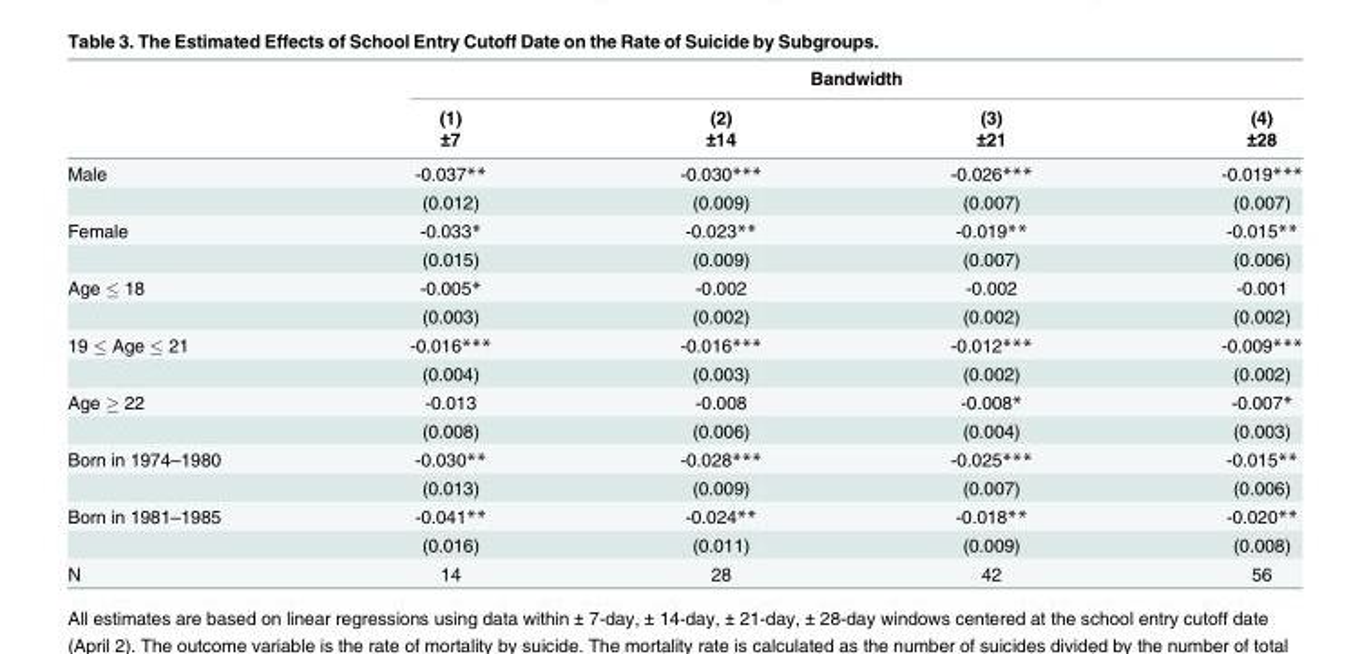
<table><thead><tr><td rowspan="3"></td><td colspan="4">Bandwidth</td></tr><tr><td rowspan="2">(1) ±7</td><td rowspan="2">(2) ±14</td><td rowspan="2">(3) ±21</td><td rowspan="2">(4) ±28</td></tr><tr></tr></thead><tbody><tr><td rowspan="2">Male</td><td>-0.037**</td><td>-0.030***</td><td>-0.026***</td><td>-0.019***</td></tr><tr><td>(0.012)</td><td>(0.009)</td><td>(0.007)</td><td>(0.007)</td></tr><tr><td rowspan="2">Female</td><td>-0.033*</td><td>-0.023**</td><td>-0.019**</td><td>-0.015**</td></tr><tr><td>(0.015)</td><td>(0.009)</td><td>(0.007)</td><td>(0.006)</td></tr><tr><td rowspan="2">Age ≤ 18</td><td>-0.005*</td><td>-0.002</td><td>-0.002</td><td>-0.001</td></tr><tr><td>(0.003)</td><td>(0.002)</td><td>(0.002)</td><td>(0.002)</td></tr><tr><td rowspan="2">19 ≤ Age ≤ 21</td><td>-0.016***</td><td>-0.016***</td><td>-0.012***</td><td>-0.009***</td></tr><tr><td>(0.004)</td><td>(0.003)</td><td>(0.002)</td><td>(0.002)</td></tr><tr><td rowspan="2">Age ≥ 22</td><td>-0.013</td><td>-0.008</td><td>-0.008*</td><td>-0.007*</td></tr><tr><td>(0.008)</td><td>(0.006)</td><td>(0.004)</td><td>(0.003)</td></tr><tr><td rowspan="2">Born in 1974–1980</td><td>-0.030**</td><td>-0.028***</td><td>-0.025***</td><td>-0.015**</td></tr><tr><td>(0.013)</td><td>(0.009)</td><td>(0.007)</td><td>(0.006)</td></tr><tr><td rowspan="2">Born in 1981–1985</td><td>-0.041**</td><td>-0.024**</td><td>-0.018**</td><td>-0.020**</td></tr><tr><td>(0.016)</td><td>(0.011)</td><td>(0.009)</td><td>(0.008)</td></tr><tr><td>N</td><td>14</td><td>28</td><td>42</td><td>56</td></tr></tbody></table>